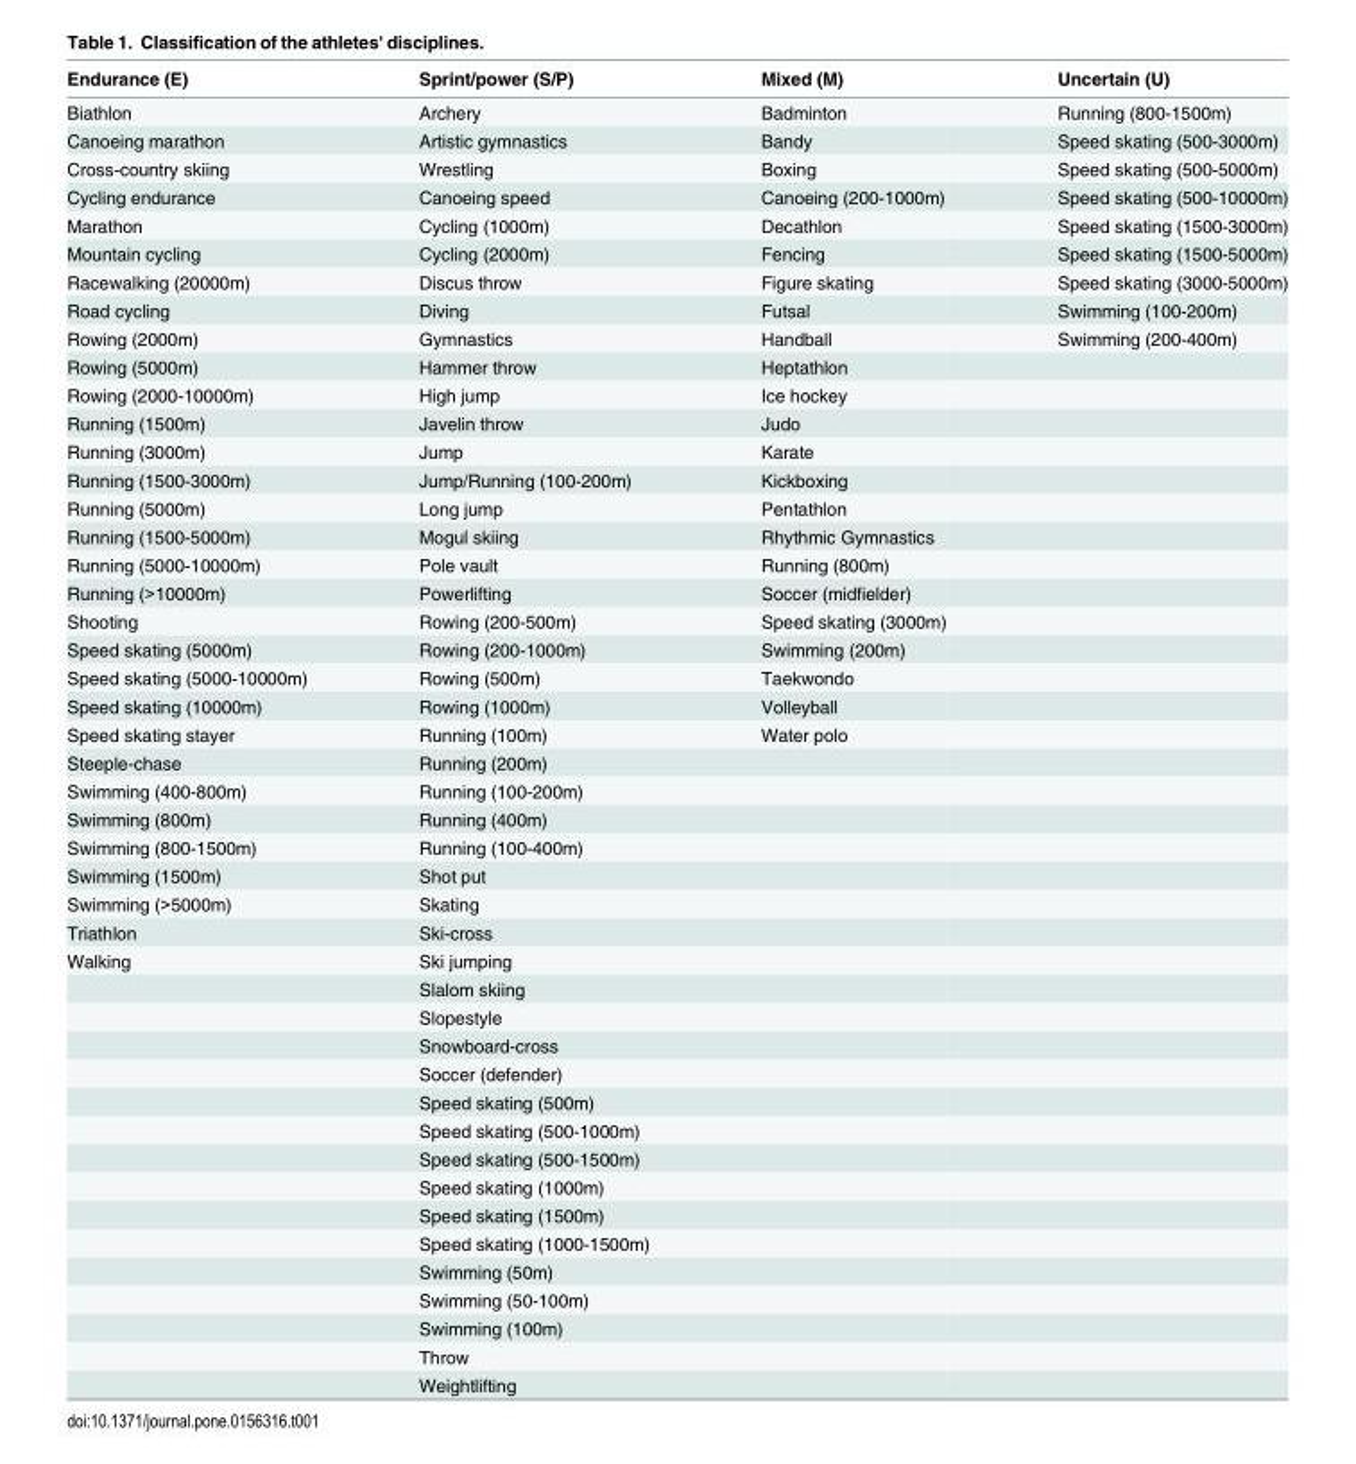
<table><thead><tr><td>Endurance (E)</td><td>Sprint/power (S/P)</td><td>Mixed (M)</td><td>Uncertain (U)</td></tr></thead><tbody><tr><td>Biathlon</td><td>Archery</td><td>Badminton</td><td>Running (800-1500m)</td></tr><tr><td>Canoeing marathon</td><td>Artistic gymnastics</td><td>Bandy</td><td>Speed skating (500-3000m)</td></tr><tr><td>Cross-country skiing</td><td>Wrestling</td><td>Boxing</td><td>Speed skating (500-5000m)</td></tr><tr><td>Cycling endurance</td><td>Canoeing speed</td><td>Canoeing (200-1000m)</td><td>Speed skating (500-10000m)</td></tr><tr><td>Marathon</td><td>Cycling (1000m)</td><td>Decathlon</td><td>Speed skating (1500-3000m)</td></tr><tr><td>Mountain cycling</td><td>Cycling (2000m)</td><td>Fencing</td><td>Speed skating (1500-5000m)</td></tr><tr><td>Racewalking (20000m)</td><td>Discus throw</td><td>Figure skating</td><td>Speed skating (3000-5000m)</td></tr><tr><td>Road cycling</td><td>Diving</td><td>Futsal</td><td>Swimming (100-200m)</td></tr><tr><td>Rowing (2000m)</td><td>Gymnastics</td><td>Handball</td><td>Swimming (200-400m)</td></tr><tr><td>Rowing (5000m)</td><td>Hammer throw</td><td>Heptathlon</td><td></td></tr><tr><td>Rowing (2000-10000m)</td><td>High jump</td><td>Ice hockey</td><td></td></tr><tr><td>Running (1500m)</td><td>Javelin throw</td><td>Judo</td><td></td></tr><tr><td>Running (3000m)</td><td>Jump</td><td>Karate</td><td></td></tr><tr><td>Running (1500-3000m)</td><td>Jump/Running (100-200m)</td><td>Kickboxing</td><td></td></tr><tr><td>Running (5000m)</td><td>Long jump</td><td>Pentathlon</td><td></td></tr><tr><td>Running (1500-5000m)</td><td>Mogul skiing</td><td>Rhythmic Gymnastics</td><td></td></tr><tr><td>Running (5000-10000m)</td><td>Pole vault</td><td>Running (800m)</td><td></td></tr><tr><td>Running (&gt;10000m)</td><td>Powerlifting</td><td>Soccer (midfielder)</td><td></td></tr><tr><td>Shooting</td><td>Rowing (200-500m)</td><td>Speed skating (3000m)</td><td></td></tr><tr><td>Speed skating (5000m)</td><td>Rowing (200-1000m)</td><td>Swimming (200m)</td><td></td></tr><tr><td>Speed skating (5000-10000m)</td><td>Rowing (500m)</td><td>Taekwondo</td><td></td></tr><tr><td>Speed skating (10000m)</td><td>Rowing (1000m)</td><td>Volleyball</td><td></td></tr><tr><td>Speed skating stayer</td><td>Running (100m)</td><td>Water polo</td><td></td></tr><tr><td>Steeple-chase</td><td>Running (200m)</td><td></td><td></td></tr><tr><td>Swimming (400-800m)</td><td>Running (100-200m)</td><td></td><td></td></tr><tr><td>Swimming (800m)</td><td>Running (400m)</td><td></td><td></td></tr><tr><td>Swimming (800-1500m)</td><td>Running (100-400m)</td><td></td><td></td></tr><tr><td>Swimming (1500m)</td><td>Shot put</td><td></td><td></td></tr><tr><td>Swimming (&gt;5000m)</td><td>Skating</td><td></td><td></td></tr><tr><td>Triathlon</td><td>Ski-cross</td><td></td><td></td></tr><tr><td rowspan="16">Walking</td><td>Ski jumping</td><td></td><td></td></tr><tr><td>Slalom skiing</td><td></td><td></td></tr><tr><td>Slopestyle</td><td></td><td></td></tr><tr><td>Snowboard-cross</td><td></td><td></td></tr><tr><td>Soccer (defender)</td><td></td><td></td></tr><tr><td>Speed skating (500m)</td><td></td><td></td></tr><tr><td>Speed skating (500-1000m)</td><td></td><td></td></tr><tr><td>Speed skating (500-1500m)</td><td></td><td></td></tr><tr><td>Speed skating (1000m)</td><td></td><td></td></tr><tr><td>Speed skating (1500m)</td><td></td><td></td></tr><tr><td>Speed skating (1000-1500m)</td><td></td><td></td></tr><tr><td>Swimming (50m)</td><td></td><td></td></tr><tr><td>Swimming (50-100m)</td><td></td><td></td></tr><tr><td>Swimming (100m)</td><td></td><td></td></tr><tr><td>Throw</td><td></td><td></td></tr><tr><td>Weightlifting</td><td></td><td></td></tr></tbody></table>